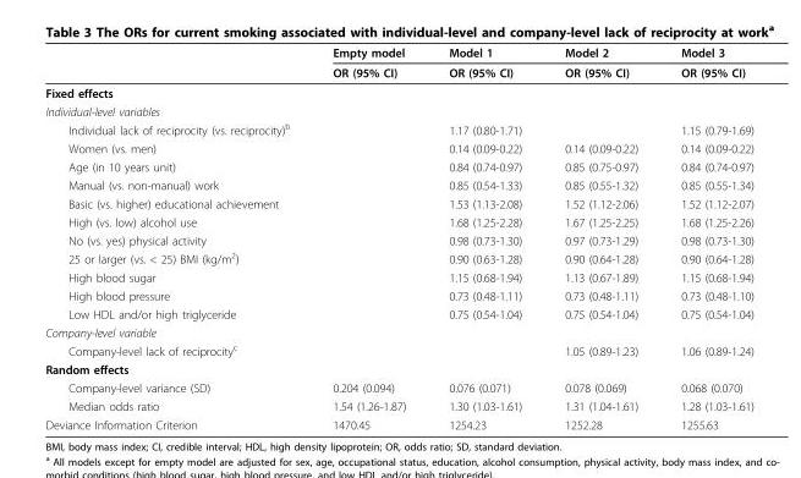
<table><thead><tr><td rowspan="2"></td><td rowspan="2">Empty model OR (95% CI)</td><td rowspan="2">Model 1 OR (95% CI)</td><td rowspan="2">Model 2 OR (95% CI)</td><td rowspan="2">Model 3 OR (95% CI)</td></tr><tr></tr></thead><tbody><tr><td colspan="5">Fixed effects</td></tr><tr><td colspan="5">Individual-level variables</td></tr><tr><td>Individual lack of reciprocity (vs. reciprocity)<sup>b</sup></td><td></td><td>1.17 (0.80-1.71)</td><td></td><td>1.15 (0.79-1.69)</td></tr><tr><td>Women (vs. men)</td><td></td><td>0.14 (0.09-0.22)</td><td>0.14 (0.09-0.22)</td><td>0.14 (0.09-0.22)</td></tr><tr><td>Age (in 10 years unit)</td><td></td><td>0.84 (0.74-0.97)</td><td>0.85 (0.75-0.97)</td><td>0.84 (0.74-0.97)</td></tr><tr><td>Manual (vs. non-manual) work</td><td></td><td>0.85 (0.54-1.33)</td><td>0.85 (0.55-1.32)</td><td>0.85 (0.55-1.34)</td></tr><tr><td>Basic (vs. higher) educational achievement</td><td></td><td>1.53 (1.13-2.08)</td><td>1.52 (1.12-2.06)</td><td>1.52 (1.12-2.07)</td></tr><tr><td>High (vs. low) alcohol use</td><td></td><td>1.68 (1.25-2.28)</td><td>1.67 (1.25-2.25)</td><td>1.68 (1.25-2.26)</td></tr><tr><td>No (vs. yes) physical activity</td><td></td><td>0.98 (0.73-1.30)</td><td>0.97 (0.73-1.29)</td><td>0.98 (0.73-1.30)</td></tr><tr><td>25 or larger (vs. &lt; 25) BMI (kg/m<sup>2</sup>)</td><td></td><td>0.90 (0.63-1.28)</td><td>0.90 (0.64-1.28)</td><td>0.90 (0.64-1.28)</td></tr><tr><td>High blood sugar</td><td></td><td>1.15 (0.68-1.94)</td><td>1.13 (0.67-1.89)</td><td>1.15 (0.68-1.94)</td></tr><tr><td>High blood pressure</td><td></td><td>0.73 (0.48-1.11)</td><td>0.73 (0.48-1.11)</td><td>0.73 (0.48-1.10)</td></tr><tr><td>Low HDL and/or high triglyceride</td><td></td><td>0.75 (0.54-1.04)</td><td>0.75 (0.54-1.04)</td><td>0.75 (0.54-1.04)</td></tr><tr><td colspan="5">Company-level variable</td></tr><tr><td>Company-level lack of reciprocity<sup>c</sup></td><td></td><td></td><td>1.05 (0.89-1.23)</td><td>1.06 (0.89-1.24)</td></tr><tr><td colspan="5">Random effects</td></tr><tr><td>Company-level variance (SD)</td><td>0.204 (0.094)</td><td>0.076 (0.071)</td><td>0.078 (0.069)</td><td>0.068 (0.070)</td></tr><tr><td>Median odds ratio</td><td>1.54 (1.26-1.87)</td><td>1.30 (1.03-1.61)</td><td>1.31 (1.04-1.61)</td><td>1.28 (1.03-1.61)</td></tr><tr><td>Deviance Information Criterion</td><td>1470.45</td><td>1254.23</td><td>1252.28</td><td>1255.63</td></tr></tbody></table>